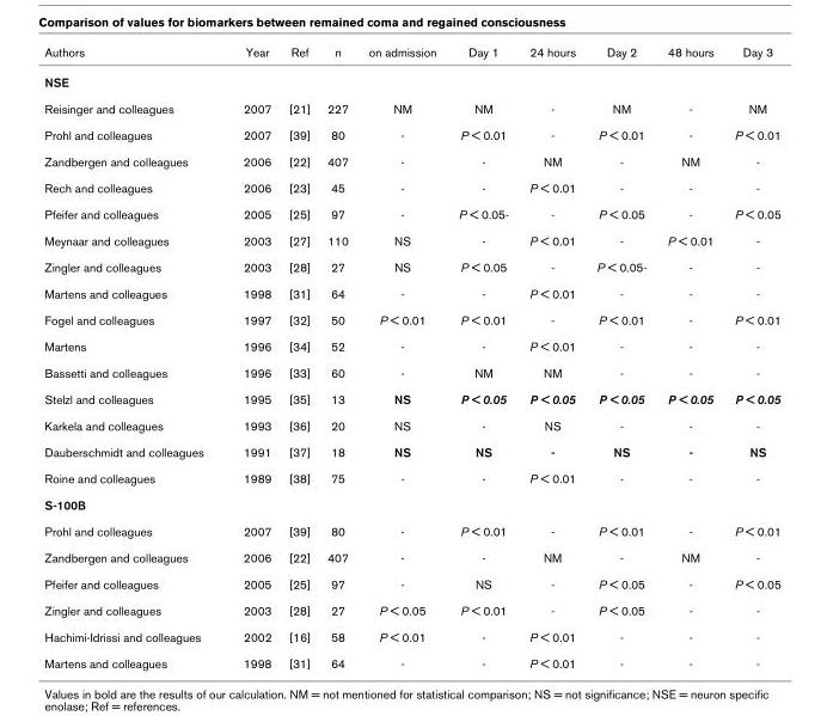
<table><thead><tr><td>Authors</td><td>Year</td><td>Ref</td><td>n</td><td>on admission</td><td>Day 1</td><td>24 hours</td><td>Day 2</td><td>48 hours</td><td>Day 3</td></tr></thead><tbody><tr><td colspan="10">NSE</td></tr><tr><td>Reisinger and colleagues</td><td>2007</td><td>[21]</td><td>227</td><td>NM</td><td>NM</td><td>-</td><td>NM</td><td>-</td><td>NM</td></tr><tr><td>Prohl and colleagues</td><td>2007</td><td>[39]</td><td>80</td><td>-</td><td>P &lt; 0.01</td><td>-</td><td>P &lt; 0.01</td><td>-</td><td>P &lt; 0.01</td></tr><tr><td>Zandbergen and colleagues</td><td>2006</td><td>[22]</td><td>407</td><td>-</td><td>-</td><td>NM</td><td>-</td><td>NM</td><td>-</td></tr><tr><td>Rech and colleagues</td><td>2006</td><td>[23]</td><td>45</td><td>-</td><td>-</td><td>P &lt; 0.01</td><td>-</td><td>-</td><td>-</td></tr><tr><td>Pfeifer and colleagues</td><td>2005</td><td>[25]</td><td>97</td><td>-</td><td>P &lt; 0.05-</td><td>-</td><td>P &lt; 0.05</td><td>-</td><td>P &lt; 0.05</td></tr><tr><td>Meynaar and colleagues</td><td>2003</td><td>[27]</td><td>110</td><td>NS</td><td>-</td><td>P &lt; 0.01</td><td>-</td><td>P &lt; 0.01</td><td>-</td></tr><tr><td>Zingler and colleagues</td><td>2003</td><td>[28]</td><td>27</td><td>NS</td><td>P &lt; 0.05</td><td>-</td><td>P &lt; 0.05-</td><td>-</td><td>-</td></tr><tr><td>Martens and colleagues</td><td>1998</td><td>[31]</td><td>64</td><td>-</td><td>-</td><td>P &lt; 0.01</td><td>-</td><td>-</td><td>-</td></tr><tr><td>Fogel and colleagues</td><td>1997</td><td>[32]</td><td>50</td><td>P &lt; 0.01</td><td>P &lt; 0.01</td><td>-</td><td>P &lt; 0.01</td><td>-</td><td>P &lt; 0.01</td></tr><tr><td>Martens</td><td>1996</td><td>[34]</td><td>52</td><td>-</td><td>-</td><td>P &lt; 0.01</td><td>-</td><td>-</td><td>-</td></tr><tr><td>Bassetti and colleagues</td><td>1996</td><td>[33]</td><td>60</td><td>-</td><td>NM</td><td>NM</td><td>-</td><td>-</td><td>-</td></tr><tr><td>Stelzl and colleagues</td><td>1995</td><td>[35]</td><td>13</td><td>NS</td><td>P &lt; 0.05</td><td>P &lt; 0.05</td><td>P &lt; 0.05</td><td>P &lt; 0.05</td><td>P &lt; 0.05</td></tr><tr><td>Karkela and colleagues</td><td>1993</td><td>[36]</td><td>20</td><td>NS</td><td>-</td><td>NS</td><td>-</td><td>-</td><td>-</td></tr><tr><td>Dauberschmidt and colleagues</td><td>1991</td><td>[37]</td><td>18</td><td>NS</td><td>NS</td><td>-</td><td>NS</td><td>-</td><td>NS</td></tr><tr><td>Roine and colleagues</td><td>1989</td><td>[38]</td><td>75</td><td>-</td><td>-</td><td>P &lt; 0.01</td><td>-</td><td>-</td><td>-</td></tr><tr><td colspan="10">S-100B</td></tr><tr><td>Prohl and colleagues</td><td>2007</td><td>[39]</td><td>80</td><td>-</td><td>P &lt; 0.01</td><td>-</td><td>P &lt; 0.01</td><td>-</td><td>P &lt; 0.01</td></tr><tr><td>Zandbergen and colleagues</td><td>2006</td><td>[22]</td><td>407</td><td>-</td><td>-</td><td>NM</td><td>-</td><td>NM</td><td>-</td></tr><tr><td>Pfeifer and colleagues</td><td>2005</td><td>[25]</td><td>97</td><td>-</td><td>NS</td><td>-</td><td>P &lt; 0.05</td><td>-</td><td>P &lt; 0.05</td></tr><tr><td>Zingler and colleagues</td><td>2003</td><td>[28]</td><td>27</td><td>P &lt; 0.05</td><td>P &lt; 0.01</td><td>-</td><td>P &lt; 0.05</td><td>-</td><td>-</td></tr><tr><td>Hachimi-Idrissi and colleagues</td><td>2002</td><td>[16]</td><td>58</td><td>P &lt; 0.01</td><td>-</td><td>P &lt; 0.01</td><td>-</td><td>-</td><td>-</td></tr><tr><td>Martens and colleagues</td><td>1998</td><td>[31]</td><td>64</td><td>-</td><td>-</td><td>P &lt; 0.01</td><td>-</td><td>-</td><td>-</td></tr></tbody></table>